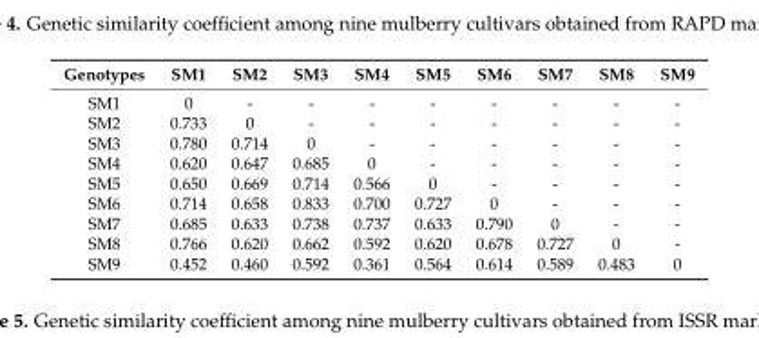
<table><thead><tr><td>Genotypes</td><td>SM1</td><td>SM2</td><td>SM3</td><td>SM4</td><td>SM5</td><td>SM6</td><td>SM7</td><td>SM8</td><td>SM9</td></tr></thead><tbody><tr><td>SM1</td><td>0</td><td>-</td><td>-</td><td>-</td><td>-</td><td>-</td><td>-</td><td>-</td><td>-</td></tr><tr><td>SM2</td><td>0.733</td><td>0</td><td>-</td><td>-</td><td>-</td><td>-</td><td>-</td><td>-</td><td>-</td></tr><tr><td>SM3</td><td>0.780</td><td>0.714</td><td>0</td><td>-</td><td>-</td><td>-</td><td>-</td><td>-</td><td>-</td></tr><tr><td>SM4</td><td>0.620</td><td>0.647</td><td>0.685</td><td>0</td><td>-</td><td>-</td><td>-</td><td>-</td><td>-</td></tr><tr><td>SM5</td><td>0.650</td><td>0.669</td><td>0.714</td><td>0.566</td><td>0</td><td>-</td><td>-</td><td>-</td><td>-</td></tr><tr><td>SM6</td><td>0.714</td><td>0.658</td><td>0.833</td><td>0.700</td><td>0.727</td><td>0</td><td>-</td><td>-</td><td>-</td></tr><tr><td>SM7</td><td>0.685</td><td>0.633</td><td>0.738</td><td>0.737</td><td>0.633</td><td>0.790</td><td>0</td><td>-</td><td>-</td></tr><tr><td>SM8</td><td>0.766</td><td>0.620</td><td>0.662</td><td>0.592</td><td>0.620</td><td>0.678</td><td>0.727</td><td>0</td><td>-</td></tr><tr><td>SM9</td><td>0.452</td><td>0.460</td><td>0.592</td><td>0.361</td><td>0.564</td><td>0.614</td><td>0.589</td><td>0.483</td><td>0</td></tr></tbody></table>